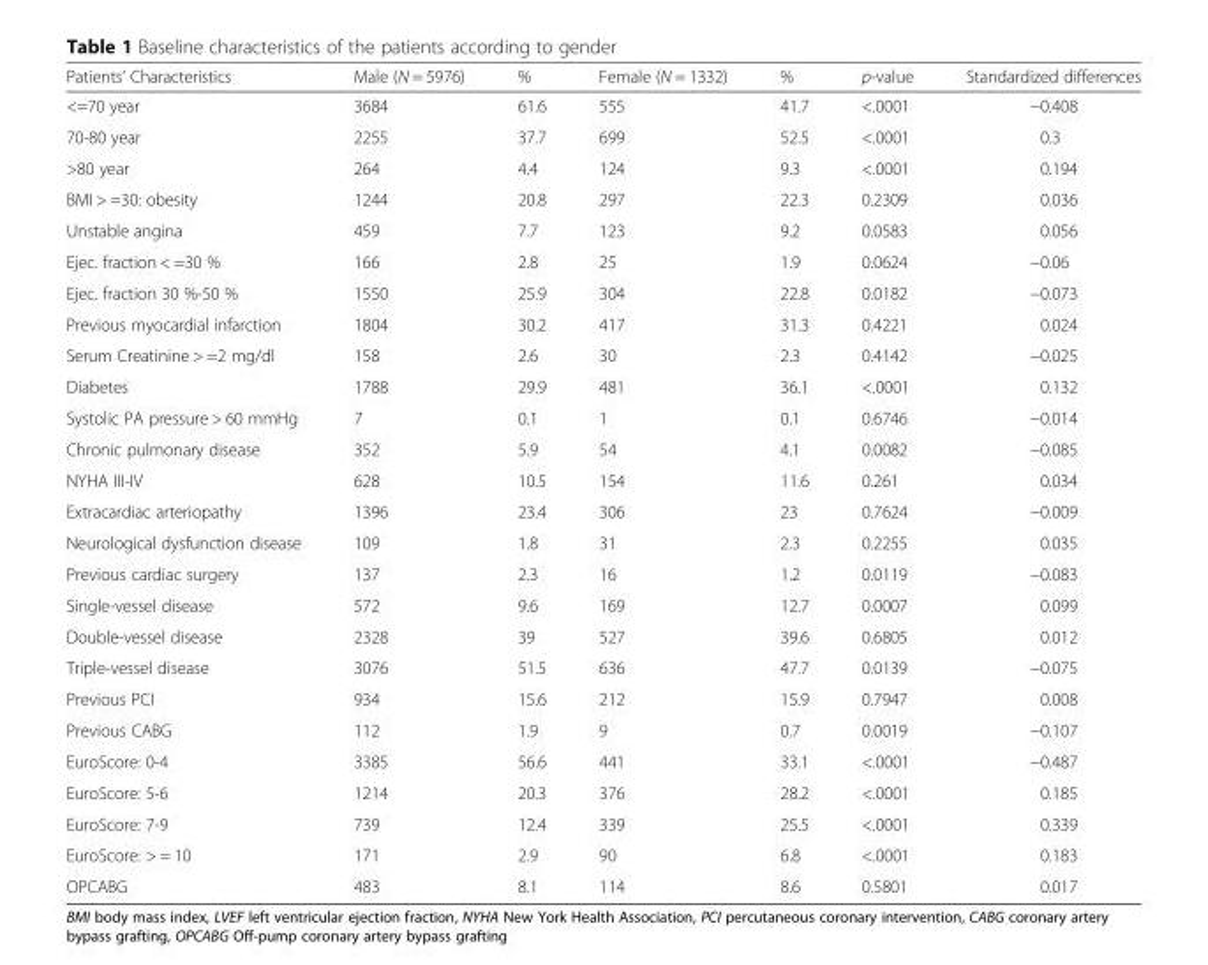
<table><thead><tr><td>Patients’ Characteristics</td><td>Male (N = 5976)</td><td>%</td><td>Female (N = 1332)</td><td>%</td><td>p-value</td><td>Standardized differences</td></tr></thead><tbody><tr><td>&lt;=70 year</td><td>3684</td><td>61.6</td><td>555</td><td>41.7</td><td>&lt;.0001</td><td>−0.408</td></tr><tr><td>70-80 year</td><td>2255</td><td>37.7</td><td>699</td><td>52.5</td><td>&lt;.0001</td><td>0.3</td></tr><tr><td>&gt;80 year</td><td>264</td><td>4.4</td><td>124</td><td>9.3</td><td>&lt;.0001</td><td>0.194</td></tr><tr><td>BMI &gt; =30: obesity</td><td>1244</td><td>20.8</td><td>297</td><td>22.3</td><td>0.2309</td><td>0.036</td></tr><tr><td>Unstable angina</td><td>459</td><td>7.7</td><td>123</td><td>9.2</td><td>0.0583</td><td>0.056</td></tr><tr><td>Ejec. fraction &lt; =30 %</td><td>166</td><td>2.8</td><td>25</td><td>1.9</td><td>0.0624</td><td>−0.06</td></tr><tr><td>Ejec. fraction 30 %-50 %</td><td>1550</td><td>25.9</td><td>304</td><td>22.8</td><td>0.0182</td><td>−0.073</td></tr><tr><td>Previous myocardial infarction</td><td>1804</td><td>30.2</td><td>417</td><td>31.3</td><td>0.4221</td><td>0.024</td></tr><tr><td>Serum Creatinine &gt; =2 mg/dl</td><td>158</td><td>2.6</td><td>30</td><td>2.3</td><td>0.4142</td><td>−0.025</td></tr><tr><td>Diabetes</td><td>1788</td><td>29.9</td><td>481</td><td>36.1</td><td>&lt;.0001</td><td>0.132</td></tr><tr><td>Systolic PA pressure &gt; 60 mmHg</td><td>7</td><td>0.1</td><td>1</td><td>0.1</td><td>0.6746</td><td>−0.014</td></tr><tr><td>Chronic pulmonary disease</td><td>352</td><td>5.9</td><td>54</td><td>4.1</td><td>0.0082</td><td>−0.085</td></tr><tr><td>NYHA III-IV</td><td>628</td><td>10.5</td><td>154</td><td>11.6</td><td>0.261</td><td>0.034</td></tr><tr><td>Extracardiac arteriopathy</td><td>1396</td><td>23.4</td><td>306</td><td>23</td><td>0.7624</td><td>−0.009</td></tr><tr><td>Neurological dysfunction disease</td><td>109</td><td>1.8</td><td>31</td><td>2.3</td><td>0.2255</td><td>0.035</td></tr><tr><td>Previous cardiac surgery</td><td>137</td><td>2.3</td><td>16</td><td>1.2</td><td>0.0119</td><td>−0.083</td></tr><tr><td>Single-vessel disease</td><td>572</td><td>9.6</td><td>169</td><td>12.7</td><td>0.0007</td><td>0.099</td></tr><tr><td>Double-vessel disease</td><td>2328</td><td>39</td><td>527</td><td>39.6</td><td>0.6805</td><td>0.012</td></tr><tr><td>Triple-vessel disease</td><td>3076</td><td>51.5</td><td>636</td><td>47.7</td><td>0.0139</td><td>−0.075</td></tr><tr><td>Previous PCI</td><td>934</td><td>15.6</td><td>212</td><td>15.9</td><td>0.7947</td><td>0.008</td></tr><tr><td>Previous CABG</td><td>112</td><td>1.9</td><td>9</td><td>0.7</td><td>0.0019</td><td>−0.107</td></tr><tr><td>EuroScore: 0-4</td><td>3385</td><td>56.6</td><td>441</td><td>33.1</td><td>&lt;.0001</td><td>−0.487</td></tr><tr><td>EuroScore: 5-6</td><td>1214</td><td>20.3</td><td>376</td><td>28.2</td><td>&lt;.0001</td><td>0.185</td></tr><tr><td>EuroScore: 7-9</td><td>739</td><td>12.4</td><td>339</td><td>25.5</td><td>&lt;.0001</td><td>0.339</td></tr><tr><td>EuroScore: &gt; = 10</td><td>171</td><td>2.9</td><td>90</td><td>6.8</td><td>&lt;.0001</td><td>0.183</td></tr><tr><td>OPCABG</td><td>483</td><td>8.1</td><td>114</td><td>8.6</td><td>0.5801</td><td>0.017</td></tr></tbody></table>